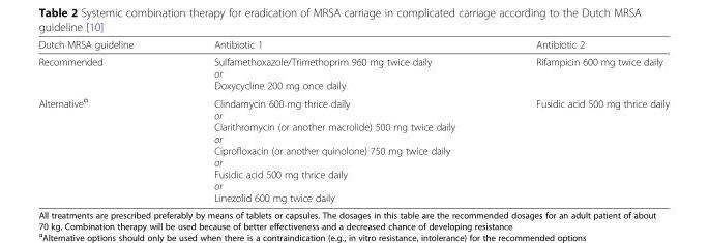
<table><thead><tr><td>Dutch MRSA guideline</td><td>Antibiotic 1</td><td>Antibiotic 2</td></tr></thead><tbody><tr><td>Recommended</td><td>Sulfamethoxazole/Trimethoprim 960 mg twice daily or Doxycycline 200 mg once daily</td><td>Rifampicin 600 mg twice daily</td></tr><tr><td>Alternative<sup>ɑ</sup></td><td>Clindamycin 600 mg thrice daily or Clarithromycin (or another macrolide) 500 mg twice daily or Ciprofloxacin (or another quinolone) 750 mg twice daily or Fusidic acid 500 mg thrice daily or Linezolid 600 mg twice daily</td><td>Fusidic acid 500 mg thrice daily</td></tr></tbody></table>